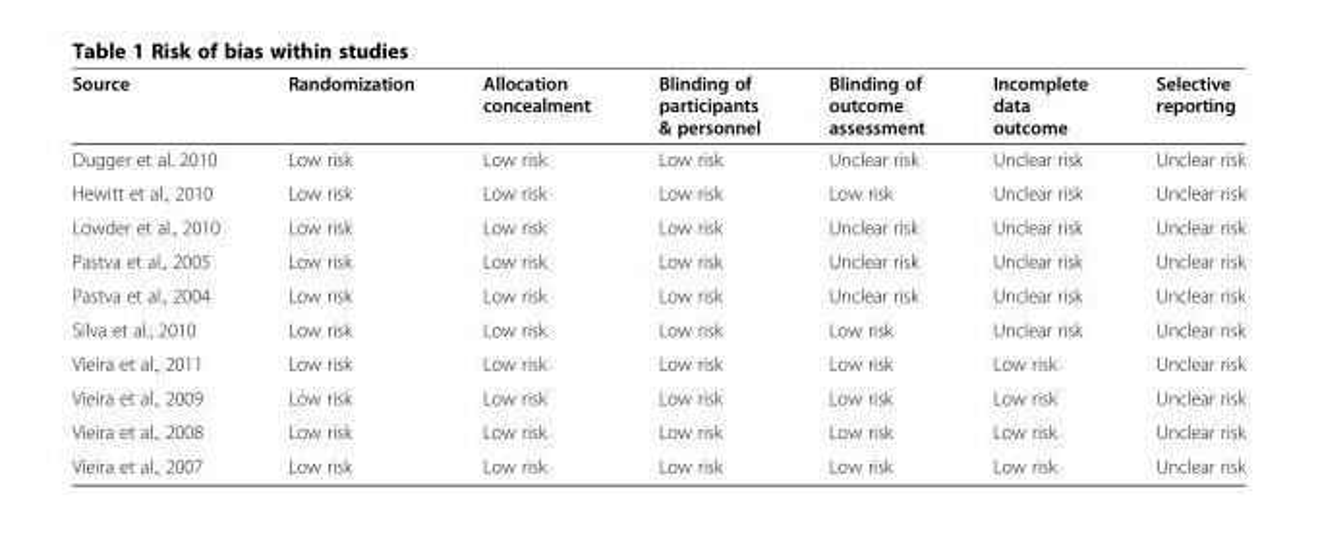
<table><thead><tr><td>Source</td><td>Randomization</td><td>Allocation concealment</td><td>Blinding of participants &amp; personnel</td><td>Blinding of outcome assessment</td><td>Incomplete data outcome</td><td>Selective reporting</td></tr></thead><tbody><tr><td>Dugger et al. 2010</td><td>Low risk</td><td>Low risk</td><td>Low risk</td><td>Unclear risk</td><td>Unclear risk</td><td>Unclear risk</td></tr><tr><td>Hewitt et al., 2010</td><td>Low risk</td><td>Low risk</td><td>Low risk</td><td>Low risk</td><td>Unclear risk</td><td>Unclear risk</td></tr><tr><td>Lowder et al., 2010</td><td>Low risk</td><td>Low risk</td><td>Low risk</td><td>Unclear risk</td><td>Unclear risk</td><td>Unclear risk</td></tr><tr><td>Pastva et al., 2005</td><td>Low risk</td><td>Low risk</td><td>Low risk</td><td>Unclear risk</td><td>Unclear risk</td><td>Unclear risk</td></tr><tr><td>Pastva et al., 2004</td><td>Low risk</td><td>Low risk</td><td>Low risk</td><td>Unclear risk</td><td>Unclear risk</td><td>Unclear risk</td></tr><tr><td>Silva et al., 2010</td><td>Low risk</td><td>Low risk</td><td>Low risk</td><td>Low risk</td><td>Unclear risk</td><td>Unclear risk</td></tr><tr><td>Vieira et al., 2011</td><td>Low risk</td><td>Low risk</td><td>Low risk</td><td>Low risk</td><td>Low risk</td><td>Unclear risk</td></tr><tr><td>Vieira et al., 2009</td><td>Low risk</td><td>Low risk</td><td>Low risk</td><td>Low risk</td><td>Low risk</td><td>Unclear risk</td></tr><tr><td>Vieira et al., 2008</td><td>Low risk</td><td>Low risk</td><td>Low risk</td><td>Low risk</td><td>Low risk</td><td>Unclear risk</td></tr><tr><td>Vieira et al., 2007</td><td>Low risk</td><td>Low risk</td><td>Low risk</td><td>Low risk</td><td>Low risk</td><td>Unclear risk</td></tr></tbody></table>